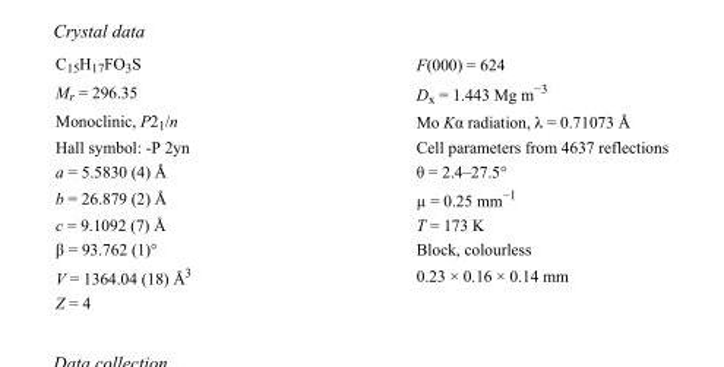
<table><tbody><tr><td>C<sub>15</sub>H<sub>17</sub>FO<sub>3</sub>S</td><td>F(000) = 624</td></tr><tr><td>M<sub>r</sub> = 296.35</td><td>D<sub>x</sub> = 1.443 Mg m<sup>−3</sup></td></tr><tr><td>Monoclinic, P2<sub>1</sub>/n</td><td>Mo Kα radiation, λ = 0.71073 Å</td></tr><tr><td>Hall symbol: -P 2yn</td><td>Cell parameters from 4637 reflections</td></tr><tr><td>a = 5.5830 (4) Å</td><td>θ = 2.4–27.5°</td></tr><tr><td>b = 26.879 (2) Å</td><td>µ = 0.25 mm<sup>−1</sup></td></tr><tr><td>c = 9.1092 (7) Å</td><td>T = 173 K</td></tr><tr><td>β = 93.762 (1)°</td><td>Block, colourless</td></tr><tr><td>V = 1364.04 (18) Å<sup>3</sup></td><td>0.23 × 0.16 × 0.14 mm</td></tr><tr><td>Z = 4</td><td></td></tr></tbody></table>